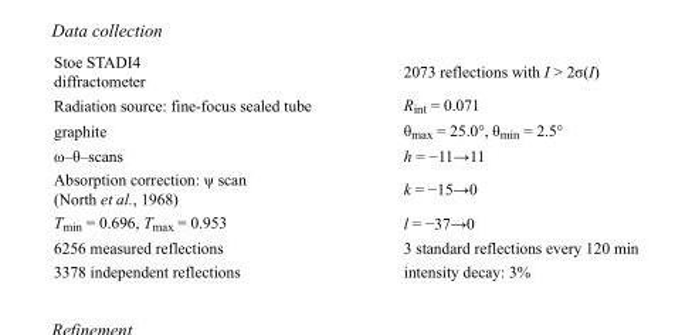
<table><tbody><tr><td>Stoe STADI4 diffractometer</td><td>2073 reflections with I &gt; 2σ(I)</td></tr><tr><td>Radiation source: fine-focus sealed tube</td><td>R<sub>int</sub> = 0.071</td></tr><tr><td>graphite</td><td>θ<sub>max</sub> = 25.0°, θ<sub>min</sub> = 2.5°</td></tr><tr><td>ω–θ–scans</td><td>h = −11→11</td></tr><tr><td>Absorption correction: ψ scan (North et al., 1968)</td><td>k = −15→0</td></tr><tr><td>T<sub>min</sub> = 0.696, T<sub>max</sub> = 0.953</td><td>l = −37→0</td></tr><tr><td>6256 measured reflections</td><td>3 standard reflections every 120 min</td></tr><tr><td>3378 independent reflections</td><td>intensity decay: 3%</td></tr></tbody></table>